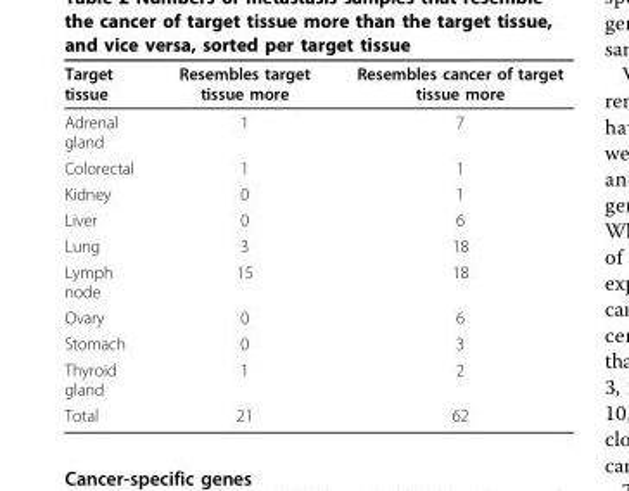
<table><thead><tr><td>Target tissue</td><td>Resembles target tissue more</td><td>Resembles cancer of target tissue more</td></tr></thead><tbody><tr><td>Adrenal gland</td><td>1</td><td>7</td></tr><tr><td>Colorectal</td><td>1</td><td>1</td></tr><tr><td>Kidney</td><td>0</td><td>1</td></tr><tr><td>Liver</td><td>0</td><td>6</td></tr><tr><td>Lung</td><td>3</td><td>18</td></tr><tr><td>Lymph node</td><td>15</td><td>18</td></tr><tr><td>Ovary</td><td>0</td><td>6</td></tr><tr><td>Stomach</td><td>0</td><td>3</td></tr><tr><td>Thyroid gland</td><td>1</td><td>2</td></tr><tr><td>Total</td><td>21</td><td>62</td></tr></tbody></table>